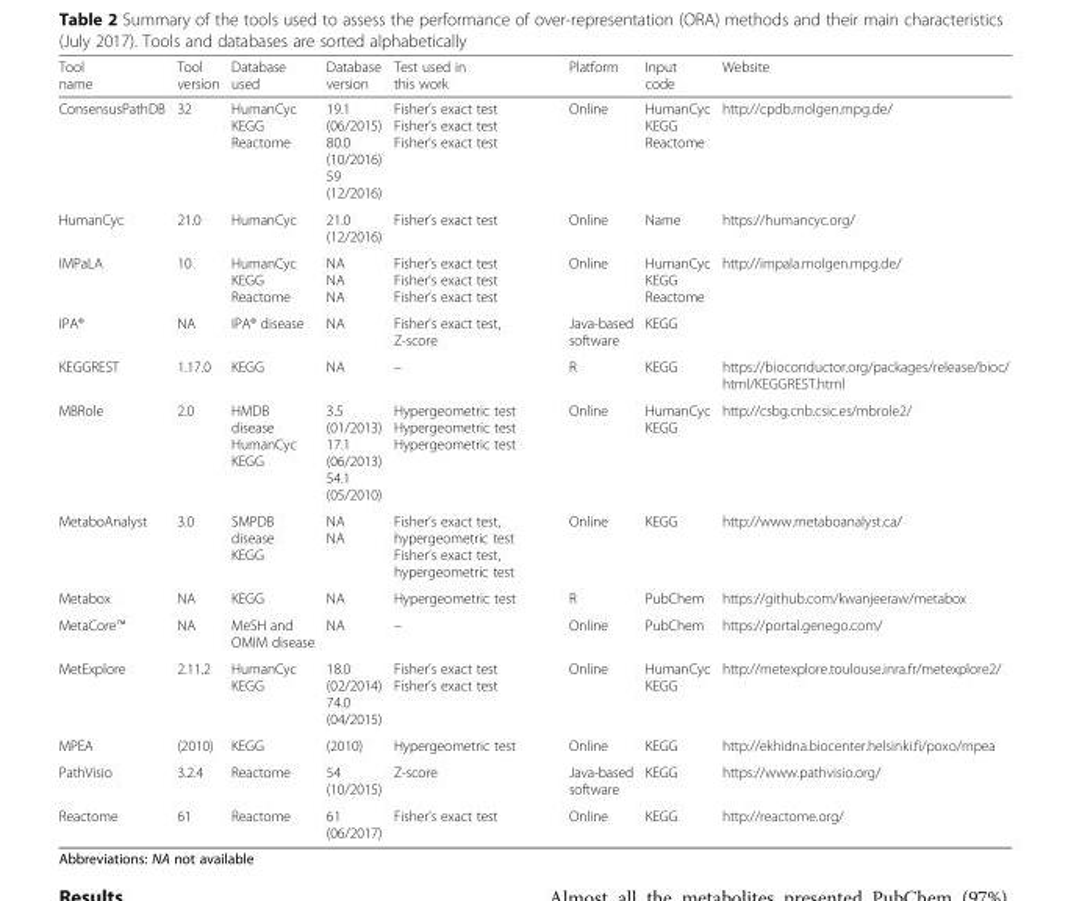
<table><thead><tr><td>Tool name</td><td>Tool version</td><td>Database used</td><td>Database version</td><td>Test used in this work</td><td>Platform</td><td>Input code</td><td>Website</td></tr></thead><tbody><tr><td>ConsensusPathDB</td><td>32</td><td>HumanCyc KEGG Reactome</td><td>19.1 (06/2015) 80.0 (10/2016) 59 (12/2016)</td><td>Fisher’s exact test Fisher’s exact test Fisher’s exact test</td><td>Online</td><td>HumanCyc KEGG Reactome</td><td>http://cpdb.molgen.mpg.de/</td></tr><tr><td>HumanCyc</td><td>21.0</td><td>HumanCyc</td><td>21.0 (12/2016)</td><td>Fisher’s exact test</td><td>Online</td><td>Name</td><td>https://humancyc.org/</td></tr><tr><td>IMPaLA</td><td>10</td><td>HumanCyc KEGG Reactome</td><td>NA NA NA</td><td>Fisher’s exact test Fisher’s exact test Fisher’s exact test</td><td>Online</td><td>HumanCyc KEGG Reactome</td><td>http://impala.molgen.mpg.de/</td></tr><tr><td>IPA®</td><td>NA</td><td>IPA® disease</td><td>NA</td><td>Fisher’s exact test, Z-score</td><td>Java-based software</td><td>KEGG</td><td></td></tr><tr><td>KEGGREST</td><td>1.17.0</td><td>KEGG</td><td>NA</td><td>–</td><td>R</td><td>KEGG</td><td>https://bioconductor.org/packages/release/bioc/ html/KEGGREST.html</td></tr><tr><td>MBRole</td><td>2.0</td><td>HMDB disease HumanCyc KEGG</td><td>3.5 (01/2013) 17.1 (06/2013) 54.1 (05/2010)</td><td>Hypergeometric test Hypergeometric test Hypergeometric test</td><td>Online</td><td>HumanCyc KEGG</td><td>http://csbg.cnb.csic.es/mbrole2/</td></tr><tr><td>MetaboAnalyst</td><td>3.0</td><td>SMPDB disease KEGG</td><td>NA NA</td><td>Fisher’s exact test, hypergeometric test Fisher’s exact test, hypergeometric test</td><td>Online</td><td>KEGG</td><td>http://www.metaboanalyst.ca/</td></tr><tr><td>Metabox</td><td>NA</td><td>KEGG</td><td>NA</td><td>Hypergeometric test</td><td>R</td><td>PubChem</td><td>https://github.com/kwanjeeraw/metabox</td></tr><tr><td>MetaCore™</td><td>NA</td><td>MeSH and OMIM disease</td><td>NA</td><td>–</td><td>Online</td><td>PubChem</td><td>https://portal.genego.com/</td></tr><tr><td>MetExplore</td><td>2.11.2</td><td>HumanCyc KEGG</td><td>18.0 (02/2014) 74.0 (04/2015)</td><td>Fisher’s exact test Fisher’s exact test</td><td>Online</td><td>HumanCyc KEGG</td><td>http://metexplore.toulouse.inra.fr/metexplore2/</td></tr><tr><td>MPEA</td><td>(2010)</td><td>KEGG</td><td>(2010)</td><td>Hypergeometric test</td><td>Online</td><td>KEGG</td><td>http://ekhidna.biocenter.helsinki.fi/poxo/mpea</td></tr><tr><td>PathVisio</td><td>3.2.4</td><td>Reactome</td><td>54 (10/2015)</td><td>Z-score</td><td>Java-based software</td><td>KEGG</td><td>https://www.pathvisio.org/</td></tr><tr><td>Reactome</td><td>61</td><td>Reactome</td><td>61 (06/2017)</td><td>Fisher’s exact test</td><td>Online</td><td>KEGG</td><td>http://reactome.org/</td></tr></tbody></table>